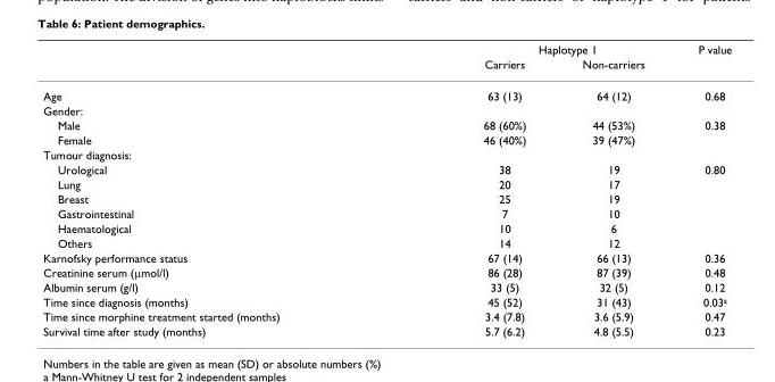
<table><thead><tr><td rowspan="2"></td><td colspan="2">Haplotype 1</td><td rowspan="2">P value</td></tr><tr><td>Carriers</td><td>Non-carriers</td></tr></thead><tbody><tr><td>Age</td><td>63 (13)</td><td>64 (12)</td><td>0.68</td></tr><tr><td colspan="4">Gender:</td></tr><tr><td>Male</td><td>68 (60%)</td><td>44 (53%)</td><td>0.38</td></tr><tr><td>Female</td><td>46 (40%)</td><td>39 (47%)</td><td></td></tr><tr><td colspan="4">Tumour diagnosis:</td></tr><tr><td>Urological</td><td>38</td><td>19</td><td>0.80</td></tr><tr><td>Lung</td><td>20</td><td>17</td><td></td></tr><tr><td>Breast</td><td>25</td><td>19</td><td></td></tr><tr><td>Gastrointestinal</td><td>7</td><td>10</td><td></td></tr><tr><td>Haematological</td><td>10</td><td>6</td><td></td></tr><tr><td>Others</td><td>14</td><td>12</td><td></td></tr><tr><td>Karnofsky performance status</td><td>67 (14)</td><td>66 (13)</td><td>0.36</td></tr><tr><td>Creatinine serum (μmol/l)</td><td>86 (28)</td><td>87 (39)</td><td>0.48</td></tr><tr><td>Albumin serum (g/l)</td><td>33 (5)</td><td>32 (5)</td><td>0.12</td></tr><tr><td>Time since diagnosis (months)</td><td>45 (52)</td><td>31 (43)</td><td>0.03<sup>a</sup></td></tr><tr><td>Time since morphine treatment started (months)</td><td>3.4 (7.8)</td><td>3.6 (5.9)</td><td>0.47</td></tr><tr><td>Survival time after study (months)</td><td>5.7 (6.2)</td><td>4.8 (5.5)</td><td>0.23</td></tr></tbody></table>